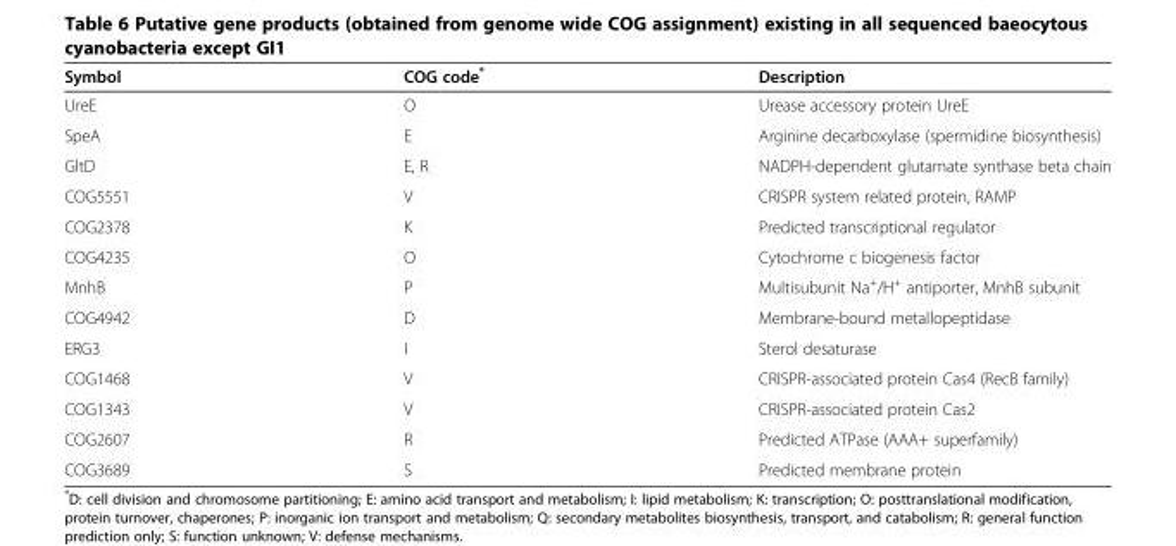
<table><thead><tr><td>Symbol</td><td>COG code*</td><td>Description</td></tr></thead><tbody><tr><td>UreE</td><td>O</td><td>Urease accessory protein UreE</td></tr><tr><td>SpeA</td><td>E</td><td>Arginine decarboxylase (spermidine biosynthesis)</td></tr><tr><td>GltD</td><td>E, R</td><td>NADPH-dependent glutamate synthase beta chain</td></tr><tr><td>COG5551</td><td>V</td><td>CRISPR system related protein, RAMP</td></tr><tr><td>COG2378</td><td>K</td><td>Predicted transcriptional regulator</td></tr><tr><td>COG4235</td><td>O</td><td>Cytochrome c biogenesis factor</td></tr><tr><td>MnhB</td><td>P</td><td>Multisubunit Na<sup>+</sup>/H<sup>+</sup> antiporter, MnhB subunit</td></tr><tr><td>COG4942</td><td>D</td><td>Membrane-bound metallopeptidase</td></tr><tr><td>ERG3</td><td>I</td><td>Sterol desaturase</td></tr><tr><td>COG1468</td><td>V</td><td>CRISPR-associated protein Cas4 (RecB family)</td></tr><tr><td>COG1343</td><td>V</td><td>CRISPR-associated protein Cas2</td></tr><tr><td>COG2607</td><td>R</td><td>Predicted ATPase (AAA+ superfamily)</td></tr><tr><td>COG3689</td><td>S</td><td>Predicted membrane protein</td></tr></tbody></table>